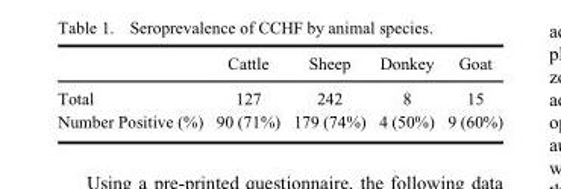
<table><thead><tr><td></td><td>Cattle</td><td>Sheep</td><td>Donkey</td><td>Goat</td></tr></thead><tbody><tr><td>Total</td><td>127</td><td>242</td><td>8</td><td>15</td></tr><tr><td>Number Positive (%)</td><td>90 (71%)</td><td>179 (74%)</td><td>4 (50%)</td><td>9 (60%)</td></tr></tbody></table>